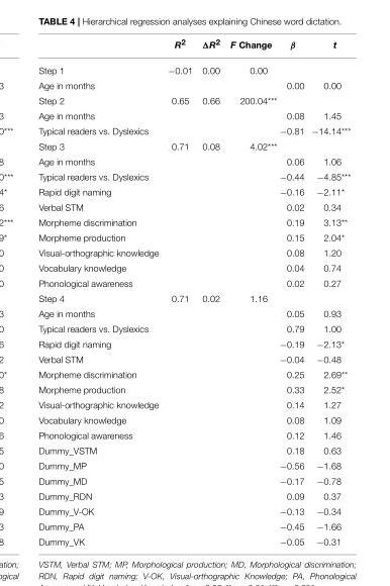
<table><thead><tr><td></td><td>R<sup>2</sup></td><td>ΔR<sup>2</sup></td><td>F Change</td><td>β</td><td>t</td></tr></thead><tbody><tr><td>Step 1</td><td>−0.01</td><td>0.00</td><td>0.00</td><td></td><td></td></tr><tr><td>Age in months</td><td></td><td></td><td></td><td>0.00</td><td>0.00</td></tr><tr><td>Step 2</td><td>0.65</td><td>0.66</td><td>200.04***</td><td></td><td></td></tr><tr><td>Age in months</td><td></td><td></td><td></td><td>0.08</td><td>1.45</td></tr><tr><td>Typical readers vs. Dyslexics</td><td></td><td></td><td></td><td>−0.81</td><td>−14.14***</td></tr><tr><td>Step 3</td><td>0.71</td><td>0.08</td><td>4.02***</td><td></td><td></td></tr><tr><td>Age in months</td><td></td><td></td><td></td><td>0.06</td><td>1.06</td></tr><tr><td>Typical readers vs. Dyslexics</td><td></td><td></td><td></td><td>−0.44</td><td>−4.85***</td></tr><tr><td>Rapid digit naming</td><td></td><td></td><td></td><td>−0.16</td><td>−2.11*</td></tr><tr><td>Verbal STM</td><td></td><td></td><td></td><td>0.02</td><td>0.34</td></tr><tr><td>Morpheme discrimination</td><td></td><td></td><td></td><td>0.19</td><td>3.13**</td></tr><tr><td>Morpheme production</td><td></td><td></td><td></td><td>0.15</td><td>2.04*</td></tr><tr><td>Visual-orthographic knowledge</td><td></td><td></td><td></td><td>0.08</td><td>1.20</td></tr><tr><td>Vocabulary knowledge</td><td></td><td></td><td></td><td>0.04</td><td>0.74</td></tr><tr><td>Phonological awareness</td><td></td><td></td><td></td><td>0.02</td><td>0.27</td></tr><tr><td>Step 4</td><td>0.71</td><td>0.02</td><td>1.16</td><td></td><td></td></tr><tr><td>Age in months</td><td></td><td></td><td></td><td>0.05</td><td>0.93</td></tr><tr><td>Typical readers vs. Dyslexics</td><td></td><td></td><td></td><td>0.79</td><td>1.00</td></tr><tr><td>Rapid digit naming</td><td></td><td></td><td></td><td>−0.19</td><td>−2.13*</td></tr><tr><td>Verbal STM</td><td></td><td></td><td></td><td>−0.04</td><td>−0.48</td></tr><tr><td>Morpheme discrimination</td><td></td><td></td><td></td><td>0.25</td><td>2.69**</td></tr><tr><td>Morpheme production</td><td></td><td></td><td></td><td>0.33</td><td>2.52*</td></tr><tr><td>Visual-orthographic knowledge</td><td></td><td></td><td></td><td>0.14</td><td>1.27</td></tr><tr><td>Vocabulary knowledge</td><td></td><td></td><td></td><td>0.08</td><td>1.09</td></tr><tr><td>Phonological awareness</td><td></td><td></td><td></td><td>0.12</td><td>1.46</td></tr><tr><td>Dummy_VSTM</td><td></td><td></td><td></td><td>0.18</td><td>0.63</td></tr><tr><td>Dummy_MP</td><td></td><td></td><td></td><td>−0.56</td><td>−1.68</td></tr><tr><td>Dummy_MD</td><td></td><td></td><td></td><td>−0.17</td><td>−0.78</td></tr><tr><td>Dummy_RDN</td><td></td><td></td><td></td><td>0.09</td><td>0.37</td></tr><tr><td>Dummy_V-OK</td><td></td><td></td><td></td><td>−0.13</td><td>−0.34</td></tr><tr><td>Dummy_PA</td><td></td><td></td><td></td><td>−0.45</td><td>−1.66</td></tr><tr><td>Dummy_VK</td><td></td><td></td><td></td><td>−0.05</td><td>−0.31</td></tr></tbody></table>